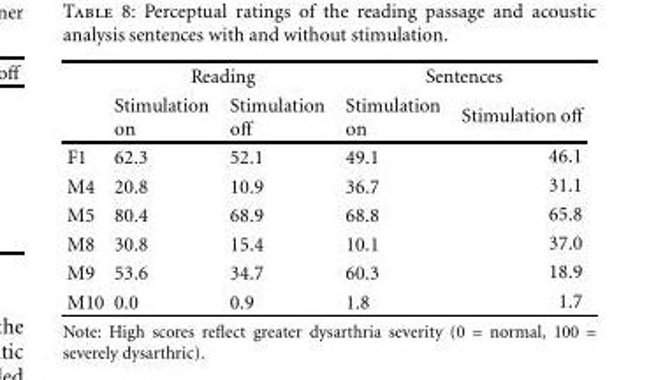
<table><thead><tr><td rowspan="2"></td><td colspan="2">Reading</td><td colspan="2">Sentences</td></tr><tr><td>Stimulation on</td><td>Stimulation off</td><td>Stimulation on</td><td>Stimulation</td></tr></thead><tbody><tr><td>F1</td><td>62.3</td><td>52.1</td><td>49.1</td><td>46.1</td></tr><tr><td>M4</td><td>20.8</td><td>10.9</td><td>36.7</td><td>31.1</td></tr><tr><td>M5</td><td>80.4</td><td>68.9</td><td>68.8</td><td>65.8</td></tr><tr><td>M8</td><td>30.8</td><td>15.4</td><td>10.1</td><td>37.0</td></tr><tr><td>M9</td><td>53.6</td><td>34.7</td><td>60.3</td><td>18.9</td></tr><tr><td>M10</td><td>0.0</td><td>0.9</td><td>1.8</td><td>1.7</td></tr></tbody></table>